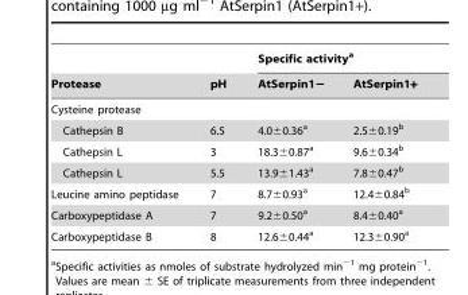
<table><thead><tr><td rowspan="2">Protease</td><td rowspan="2">pH</td><td colspan="2">Specific activity<sup>a</sup></td></tr><tr><td>AtSerpin1−</td><td>AtSerpin1+</td></tr></thead><tbody><tr><td colspan="4">Cysteine protease</td></tr><tr><td>Cathepsin B</td><td>6.5</td><td>4.0±0.36<sup>a</sup></td><td>2.5±0.19<sup>b</sup></td></tr><tr><td>Cathepsin L</td><td>3</td><td>18.3±0.87<sup>a</sup></td><td>9.6±0.34<sup>b</sup></td></tr><tr><td>Cathepsin L</td><td>5.5</td><td>13.9±1.43<sup>a</sup></td><td>7.8±0.47<sup>b</sup></td></tr><tr><td>Leucine amino peptidase</td><td>7</td><td>8.7±0.93<sup>a</sup></td><td>12.4±0.84<sup>b</sup></td></tr><tr><td>Carboxypeptidase A</td><td>7</td><td>9.2±0.50<sup>a</sup></td><td>8.4±0.40<sup>a</sup></td></tr><tr><td>Carboxypeptidase B</td><td>8</td><td>12.6±0.44<sup>a</sup></td><td>12.3±0.90<sup>a</sup></td></tr></tbody></table>